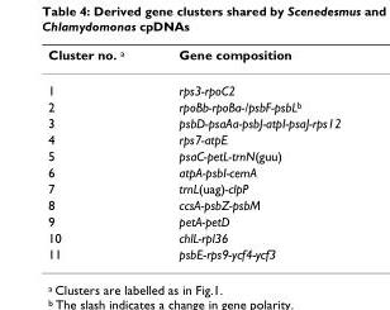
<table><thead><tr><td>Cluster no. <sup>a</sup></td><td>Gene composition</td></tr></thead><tbody><tr><td>1</td><td>rps3-rpoC2</td></tr><tr><td>2</td><td>rpoBb-rpoBa-/psbF-psbL<sup>b</sup></td></tr><tr><td>3</td><td>psbD-psaAa-psbJ-atpI-psaJ-rps12</td></tr><tr><td>4</td><td>rps7-atpE</td></tr><tr><td>5</td><td>psaC-petL-trnN(guu)</td></tr><tr><td>6</td><td>atpA-psbI-cemA</td></tr><tr><td>7</td><td>trnL(uag)-clpP</td></tr><tr><td>8</td><td>ccsA-psbZ-psbM</td></tr><tr><td>9</td><td>petA-petD</td></tr><tr><td>10</td><td>chlL-rpl36</td></tr><tr><td>11</td><td>psbE-rps9-ycf4-ycf3</td></tr></tbody></table>